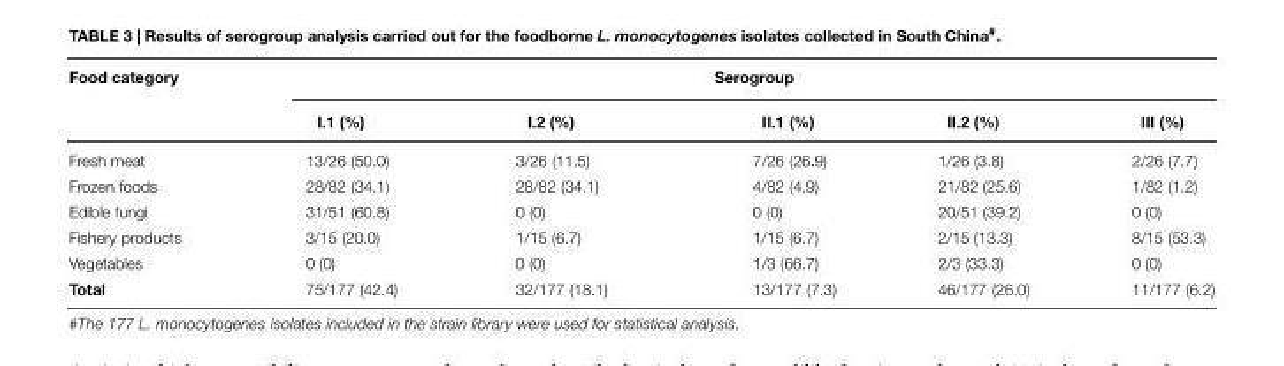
<table><thead><tr><td rowspan="2">Food category</td><td colspan="5">Serogroup</td></tr><tr><td>I.1 (%)</td><td>I.2 (%)</td><td>II.1 (%)</td><td>II.2 (%)</td><td>III (%)</td></tr></thead><tbody><tr><td>Fresh meat</td><td>13/26 (50.0)</td><td>3/26 (11.5)</td><td>7/26 (26.9)</td><td>1/26 (3.8)</td><td>2/26 (7.7)</td></tr><tr><td>Frozen foods</td><td>28/82 (34.1)</td><td>28/82 (34.1)</td><td>4/82 (4.9)</td><td>21/82 (25.6)</td><td>1/82 (1.2)</td></tr><tr><td>Edible fungi</td><td>31/51 (60.8)</td><td>0 (0)</td><td>0 (0)</td><td>20/51 (39.2)</td><td>0 (0)</td></tr><tr><td>Fishery products</td><td>3/15 (20.0)</td><td>1/15 (6.7)</td><td>1/15 (6.7)</td><td>2/15 (13.3)</td><td>8/15 (53.3)</td></tr><tr><td>Vegetables</td><td>0 (0)</td><td>0 (0)</td><td>1/3 (66.7)</td><td>2/3 (33.3)</td><td>0 (0)</td></tr><tr><td>Total</td><td>75/177 (42.4)</td><td>32/177 (18.1)</td><td>13/177 (7.3)</td><td>46/177 (26.0)</td><td>11/177 (6.2)</td></tr></tbody></table>